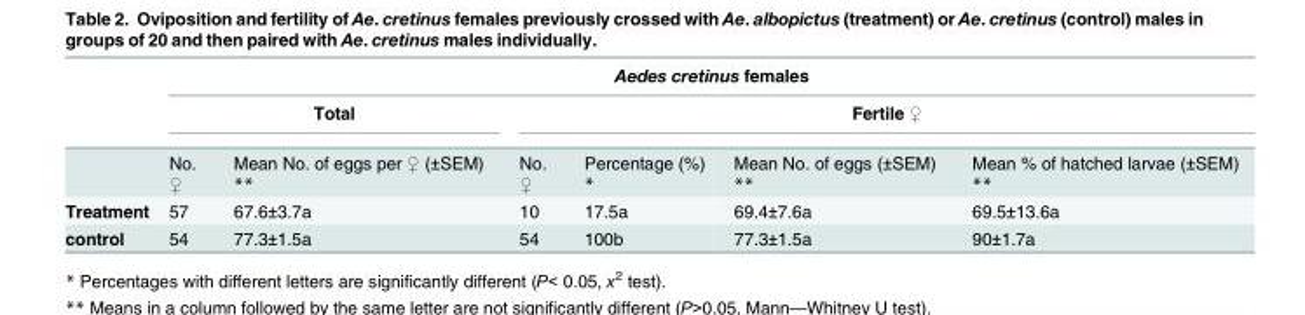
<table><thead><tr><td rowspan="3"></td><td colspan="6">Aedes cretinus females</td></tr><tr><td colspan="2">Total</td><td colspan="4">Fertile ♀</td></tr><tr><td>No. ♀</td><td>Mean No. of eggs per ♀ (±SEM) **</td><td>No. ♀</td><td>Percentage (%) *</td><td>Mean No. of eggs (±SEM) **</td><td>Mean % of hatched larvae (±SEM) **</td></tr></thead><tbody><tr><td>Treatment</td><td>57</td><td>67.6±3.7a</td><td>10</td><td>17.5a</td><td>69.4±7.6a</td><td>69.5±13.6a</td></tr><tr><td>control</td><td>54</td><td>77.3±1.5a</td><td>54</td><td>100b</td><td>77.3±1.5a</td><td>90±1.7a</td></tr></tbody></table>